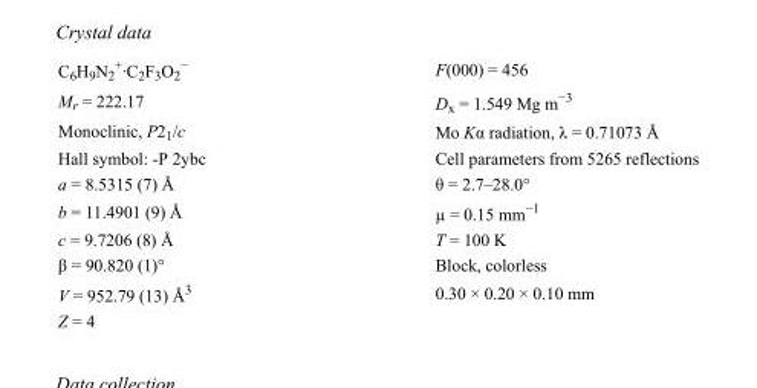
<table><tbody><tr><td>C<sub>6</sub>H<sub>9</sub>N<sub>2</sub> <sup>+</sup>·C<sub>2</sub>F<sub>3</sub>O<sub>2</sub> <sup>−</sup></td><td>F(000) = 456</td></tr><tr><td>M<sub>r</sub> = 222.17</td><td>D<sub>x</sub> = 1.549 Mg m<sup>−3</sup></td></tr><tr><td>Monoclinic, P2<sub>1</sub>/c</td><td>Mo Kα radiation, λ = 0.71073 Å</td></tr><tr><td>Hall symbol: -P 2ybc</td><td>Cell parameters from 5265 reflections</td></tr><tr><td>a = 8.5315 (7) Å</td><td>θ = 2.7–28.0°</td></tr><tr><td>b = 11.4901 (9) Å</td><td>µ = 0.15 mm<sup>−1</sup></td></tr><tr><td>c = 9.7206 (8) Å</td><td>T = 100 K</td></tr><tr><td>β = 90.820 (1)°</td><td>Block, colorless</td></tr><tr><td>V = 952.79 (13) Å<sup>3</sup></td><td>0.30 × 0.20 × 0.10 mm</td></tr><tr><td>Z = 4</td><td></td></tr></tbody></table>